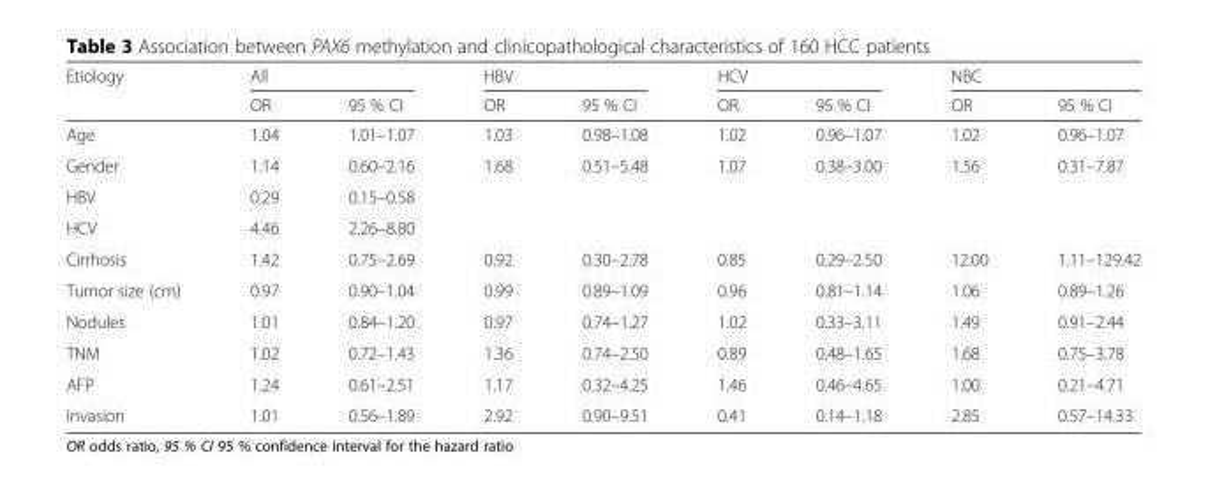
<table><thead><tr><td rowspan="2">Etiology</td><td colspan="2">All</td><td colspan="2">HBV</td><td colspan="2">HCV</td><td colspan="2">NBC</td></tr><tr><td>OR</td><td>95 % CI</td><td>OR</td><td>95 % CI</td><td>OR</td><td>95 % CI</td><td>OR</td><td>95 % CI</td></tr></thead><tbody><tr><td>Age</td><td>1.04</td><td>1.01–1.07</td><td>1.03</td><td>0.98–1.08</td><td>1.02</td><td>0.96–1.07</td><td>1.02</td><td>0.96–1.07</td></tr><tr><td>Gender</td><td>1.14</td><td>0.60–2.16</td><td>1.68</td><td>0.51–5.48</td><td>1.07</td><td>0.38–3.00</td><td>1.56</td><td>0.31–7.87</td></tr><tr><td>HBV</td><td>0.29</td><td>0.15–0.58</td><td></td><td></td><td></td><td></td><td></td><td></td></tr><tr><td>HCV</td><td>4.46</td><td>2.26–8.80</td><td></td><td></td><td></td><td></td><td></td><td></td></tr><tr><td>Cirrhosis</td><td>1.42</td><td>0.75–2.69</td><td>0.92</td><td>0.30–2.78</td><td>0.85</td><td>0.29–2.50</td><td>12.00</td><td>1.11–129.42</td></tr><tr><td>Tumor size (cm)</td><td>0.97</td><td>0.90–1.04</td><td>0.99</td><td>0.89–1.09</td><td>0.96</td><td>0.81–1.14</td><td>1.06</td><td>0.89–1.26</td></tr><tr><td>Nodules</td><td>1.01</td><td>0.84–1.20</td><td>0.97</td><td>0.74–1.27</td><td>1.02</td><td>0.33–3.11</td><td>1.49</td><td>0.91–2.44</td></tr><tr><td>TNM</td><td>1.02</td><td>0.72–1.43</td><td>1.36</td><td>0.74–2.50</td><td>0.89</td><td>0.48–1.65</td><td>1.68</td><td>0.75–3.78</td></tr><tr><td>AFP</td><td>1.24</td><td>0.61–2.51</td><td>1.17</td><td>0.32–4.25</td><td>1.46</td><td>0.46–4.65</td><td>1.00</td><td>0.21–4.71</td></tr><tr><td>Invasion</td><td>1.01</td><td>0.56–1.89</td><td>2.92</td><td>0.90–9.51</td><td>0.41</td><td>0.14–1.18</td><td>2.85</td><td>0.57–14.33</td></tr></tbody></table>